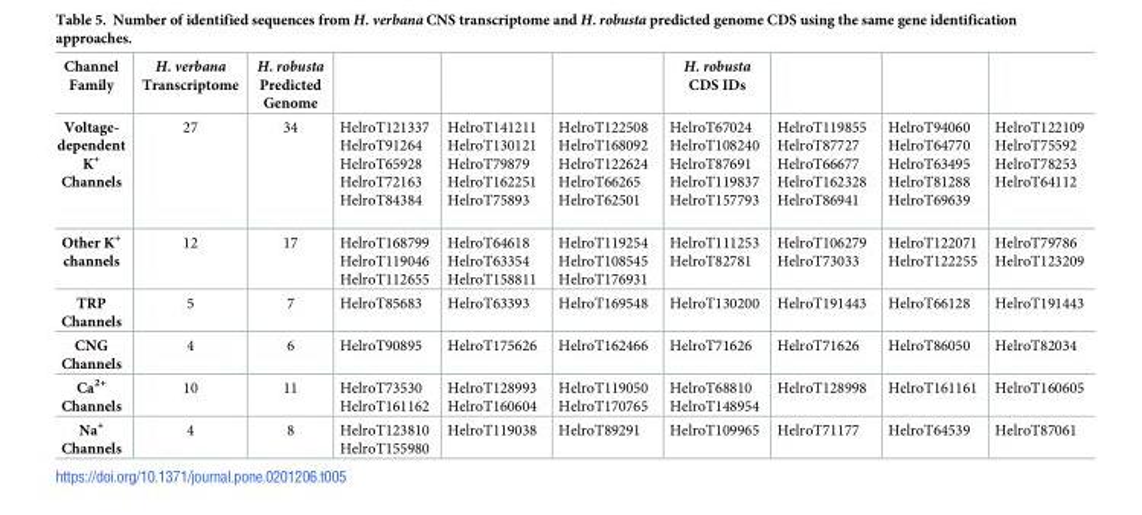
<table><thead><tr><td>Channel Family</td><td>H. verbana Transcriptome</td><td>H. robusta Predicted Genome</td><td></td><td></td><td></td><td>H. robusta CDS IDs</td><td></td><td></td><td></td></tr></thead><tbody><tr><td>Voltage- dependent K<sup>+</sup> Channels</td><td>27</td><td>34</td><td>HelroT121337 HelroT91264 HelroT65928 HelroT72163 HelroT84384</td><td>HelroT141211 HelroT130121 HelroT79879 HelroT162251 HelroT75893</td><td>HelroT122508 HelroT168092 HelroT122624 HelroT66265 HelroT62501</td><td>HelroT67024 HelroT108240 HelroT87691 HelroT119837 HelroT157793</td><td>HelroT119855 HelroT87727 HelroT66677 HelroT162328 HelroT86941</td><td>HelroT94060 HelroT64770 HelroT63495 HelroT81288 HelroT69639</td><td>HelroT122109 HelroT75592 HelroT78253 HelroT64112</td></tr><tr><td>Other K<sup>+</sup> channels</td><td>12</td><td>17</td><td>HelroT168799 HelroT119046 HelroT112655</td><td>HelroT64618 HelroT63354 HelroT158811</td><td>HelroT119254 HelroT108545 HelroT176931</td><td>HelroT111253 HelroT82781</td><td>HelroT106279 HelroT73033</td><td>HelroT122071 HelroT122255</td><td>HelroT79786 HelroT123209</td></tr><tr><td>TRP Channels</td><td>5</td><td>7</td><td>HelroT85683</td><td>HelroT63393</td><td>HelroT169548</td><td>HelroT130200</td><td>HelroT191443</td><td>HelroT66128</td><td>HelroT191443</td></tr><tr><td>CNG Channels</td><td>4</td><td>6</td><td>HelroT90895</td><td>HelroT175626</td><td>HelroT162466</td><td>HelroT71626</td><td>HelroT71626</td><td>HelroT86050</td><td>HelroT82034</td></tr><tr><td>Ca<sup>2+</sup> Channels</td><td>10</td><td>11</td><td>HelroT73530 HelroT161162</td><td>HelroT128993 HelroT160604</td><td>HelroT119050 HelroT170765</td><td>HelroT68810 HelroT148954</td><td>HelroT128998</td><td>HelroT161161</td><td>HelroT160605</td></tr><tr><td>Na<sup>+</sup> Channels</td><td>4</td><td>8</td><td>HelroT123810 HelroT155980</td><td>HelroT119038</td><td>HelroT89291</td><td>HelroT109965</td><td>HelroT71177</td><td>HelroT64539</td><td>HelroT87061</td></tr></tbody></table>